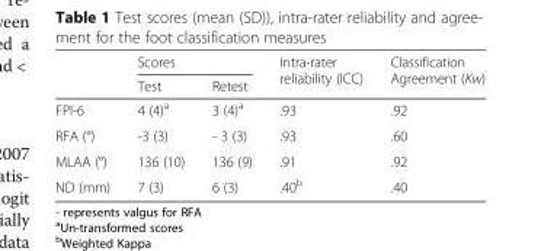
<table><thead><tr><td rowspan="2"></td><td colspan="2">Scores</td><td rowspan="2">Intra-rater reliability (ICC)</td><td rowspan="2">Classification Agreement (Kw)</td></tr><tr><td>Test</td><td>Retest</td></tr></thead><tbody><tr><td>FPI-6</td><td>4 (4)<sup>a</sup></td><td>3 (4)<sup>a</sup></td><td>.93</td><td>.92</td></tr><tr><td>RFA (°)</td><td>-3 (3)</td><td>- 3 (3)</td><td>.93</td><td>.60</td></tr><tr><td>MLAA (°)</td><td>136 (10)</td><td>136 (9)</td><td>.91</td><td>.92</td></tr><tr><td>ND (mm)</td><td>7 (3)</td><td>6 (3)</td><td>.40<sup>b</sup></td><td>.40</td></tr></tbody></table>